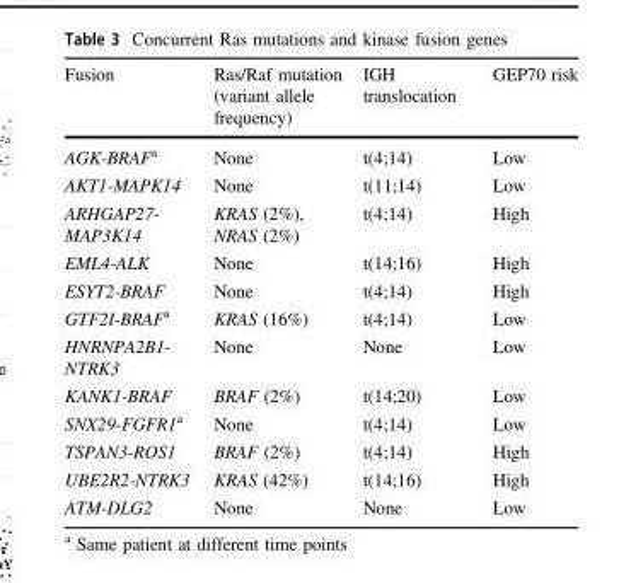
<table><thead><tr><td>Fusion</td><td>Ras/Raf mutation (variant allele frequency)</td><td>IGH translocation</td><td>GEP70 risk</td></tr></thead><tbody><tr><td>AGK-BRAF<sup>a</sup></td><td>None</td><td>t(4;14)</td><td>Low</td></tr><tr><td>AKT1-MAPK14</td><td>None</td><td>t(11;14)</td><td>Low</td></tr><tr><td>ARHGAP27- MAP3K14</td><td>KRAS (2%), NRAS (2%)</td><td>t(4;14)</td><td>High</td></tr><tr><td>EML4-ALK</td><td>None</td><td>t(14;16)</td><td>High</td></tr><tr><td>ESYT2-BRAF</td><td>None</td><td>t(4;14)</td><td>High</td></tr><tr><td>GTF2I-BRAF<sup>a</sup></td><td>KRAS (16%)</td><td>t(4;14)</td><td>Low</td></tr><tr><td>HNRNPA2B1- NTRK3</td><td>None</td><td>None</td><td>Low</td></tr><tr><td>KANK1-BRAF</td><td>BRAF (2%)</td><td>t(14;20)</td><td>Low</td></tr><tr><td>SNX29-FGFR1<sup>a</sup></td><td>None</td><td>t(4;14)</td><td>Low</td></tr><tr><td>TSPAN3-ROS1</td><td>BRAF (2%)</td><td>t(4;14)</td><td>High</td></tr><tr><td>UBE2R2-NTRK3</td><td>KRAS (42%)</td><td>t(14;16)</td><td>High</td></tr><tr><td>ATM-DLG2</td><td>None</td><td>None</td><td>Low</td></tr></tbody></table>